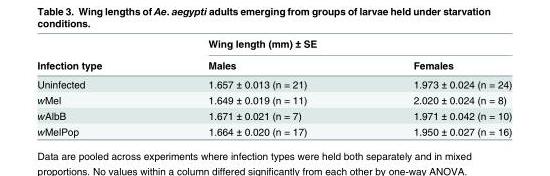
<table><thead><tr><td rowspan="2">Infection type</td><td colspan="2">Wing length (mm) ± SE</td></tr><tr><td>Males</td><td>Females</td></tr></thead><tbody><tr><td>Uninfected</td><td>1.657 ± 0.013 (n = 21)</td><td>1.973 ± 0.024 (n = 24)</td></tr><tr><td>wMel</td><td>1.649 ± 0.019 (n = 11)</td><td>2.020 ± 0.024 (n = 8)</td></tr><tr><td>wAlbB</td><td>1.671 ± 0.021 (n = 7)</td><td>1.971 ± 0.042 (n = 10)</td></tr><tr><td>wMelPop</td><td>1.664 ± 0.020 (n = 17)</td><td>1.950 ± 0.027 (n = 16)</td></tr></tbody></table>